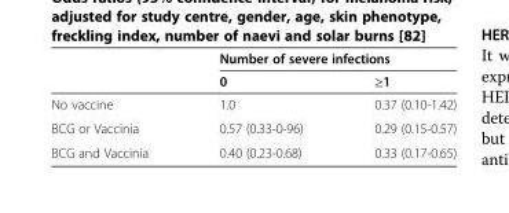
<table><thead><tr><td rowspan="2"></td><td colspan="2">Number of severe infections</td></tr><tr><td>0</td><td>≥1</td></tr></thead><tbody><tr><td>No vaccine</td><td>1.0</td><td>0.37 (0.10-1.42)</td></tr><tr><td>BCG or Vaccinia</td><td>0.57 (0.33-0-96)</td><td>0.29 (0.15-0.57)</td></tr><tr><td>BCG and Vaccinia</td><td>0.40 (0.23-0.68)</td><td>0.33 (0.17-0.65)</td></tr></tbody></table>